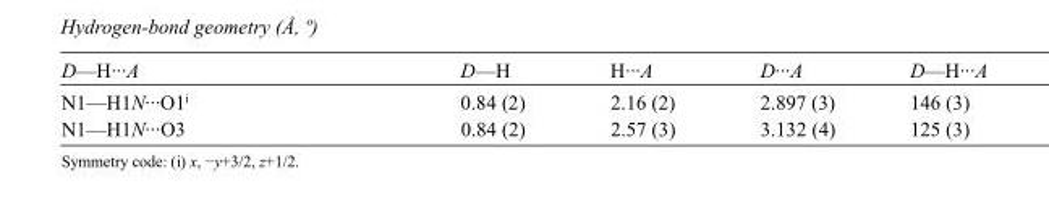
<table><tbody><tr><td>D—H···A</td><td>D—H</td><td>H···A</td><td>D···A</td><td>D—H···A</td></tr><tr><td>N1—H1N···O1<sup>i</sup></td><td>0.84 (2)</td><td>2.16 (2)</td><td>2.897 (3)</td><td>146 (3)</td></tr><tr><td>N1—H1N···O3</td><td>0.84 (2)</td><td>2.57 (3)</td><td>3.132 (4)</td><td>125 (3)</td></tr></tbody></table>